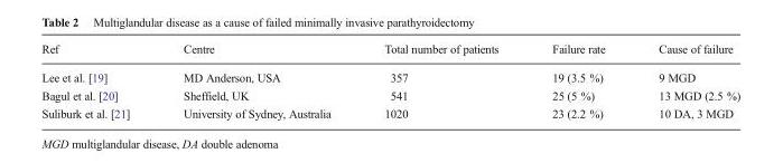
<table><thead><tr><td>Ref</td><td>Centre</td><td>Total number of patients</td><td>Failure rate</td><td>Cause of failure</td></tr></thead><tbody><tr><td>Lee et al. [19]</td><td>MD Anderson, USA</td><td>357</td><td>19 (3.5 %)</td><td>9 MGD</td></tr><tr><td>Bagul et al. [20]</td><td>Sheffield, UK</td><td>541</td><td>25 (5 %)</td><td>13 MGD (2.5 %)</td></tr><tr><td>Suliburk et al. [21]</td><td>University of Sydney, Australia</td><td>1020</td><td>23 (2.2 %)</td><td>10 DA, 3 MGD</td></tr></tbody></table>